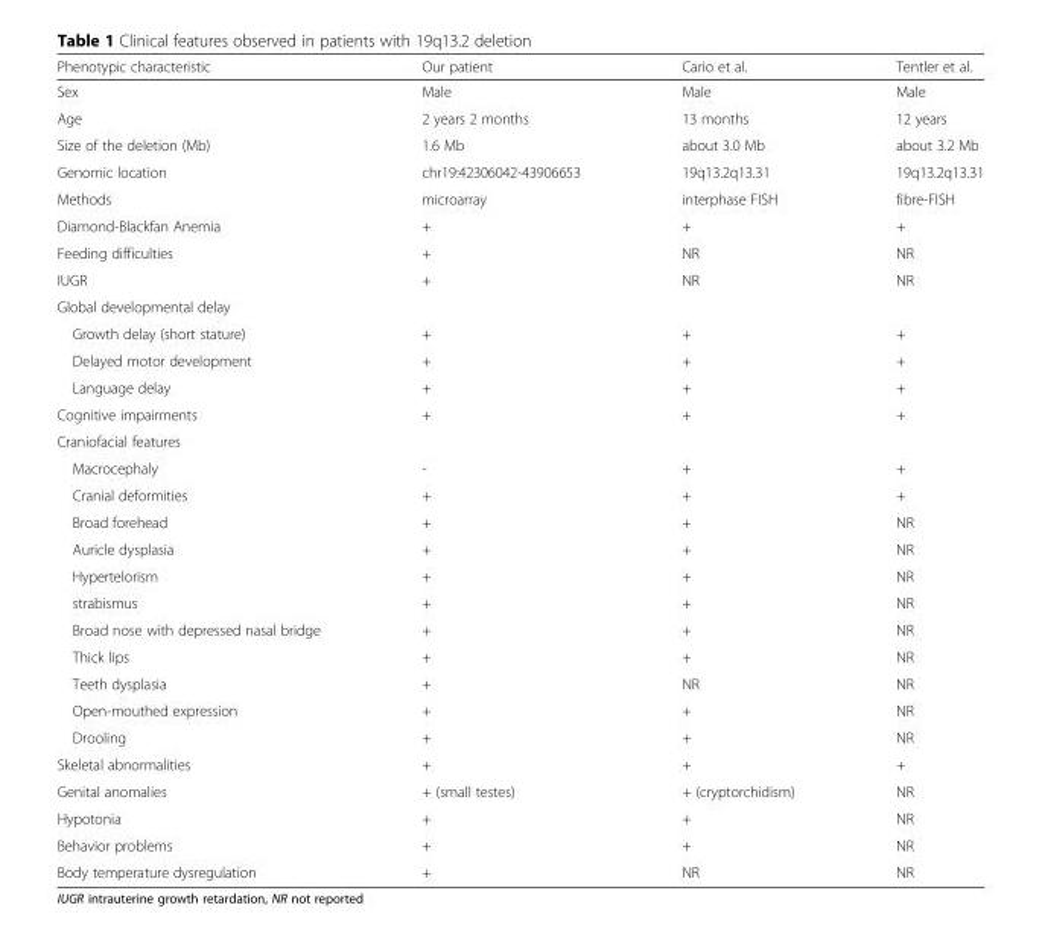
<table><thead><tr><td>Phenotypic characteristic</td><td>Our patient</td><td>Cario et al.</td><td>Tentler et al.</td></tr></thead><tbody><tr><td>Sex</td><td>Male</td><td>Male</td><td>Male</td></tr><tr><td>Age</td><td>2 years 2 months</td><td>13 months</td><td>12 years</td></tr><tr><td>Size of the deletion (Mb)</td><td>1.6 Mb</td><td>about 3.0 Mb</td><td>about 3.2 Mb</td></tr><tr><td>Genomic location</td><td>chr19:42306042-43906653</td><td>19q13.2q13.31</td><td>19q13.2q13.31</td></tr><tr><td>Methods</td><td>microarray</td><td>interphase FISH</td><td>fibre-FISH</td></tr><tr><td>Diamond-Blackfan Anemia</td><td>+</td><td>+</td><td>+</td></tr><tr><td>Feeding difficulties</td><td>+</td><td>NR</td><td>NR</td></tr><tr><td>IUGR</td><td>+</td><td>NR</td><td>NR</td></tr><tr><td colspan="4">Global developmental delay</td></tr><tr><td>Growth delay (short stature)</td><td>+</td><td>+</td><td>+</td></tr><tr><td>Delayed motor development</td><td>+</td><td>+</td><td>+</td></tr><tr><td>Language delay</td><td>+</td><td>+</td><td>+</td></tr><tr><td>Cognitive impairments</td><td>+</td><td>+</td><td>+</td></tr><tr><td colspan="4">Craniofacial features</td></tr><tr><td>Macrocephaly</td><td>-</td><td>+</td><td>+</td></tr><tr><td>Cranial deformities</td><td>+</td><td>+</td><td>+</td></tr><tr><td>Broad forehead</td><td>+</td><td>+</td><td>NR</td></tr><tr><td>Auricle dysplasia</td><td>+</td><td>+</td><td>NR</td></tr><tr><td>Hypertelorism</td><td>+</td><td>+</td><td>NR</td></tr><tr><td>strabismus</td><td>+</td><td>+</td><td>NR</td></tr><tr><td>Broad nose with depressed nasal bridge</td><td>+</td><td>+</td><td>NR</td></tr><tr><td>Thick lips</td><td>+</td><td>+</td><td>NR</td></tr><tr><td>Teeth dysplasia</td><td>+</td><td>NR</td><td>NR</td></tr><tr><td>Open-mouthed expression</td><td>+</td><td>+</td><td>NR</td></tr><tr><td>Drooling</td><td>+</td><td>+</td><td>NR</td></tr><tr><td>Skeletal abnormalities</td><td>+</td><td>+</td><td>+</td></tr><tr><td>Genital anomalies</td><td>+ (small testes)</td><td>+ (cryptorchidism)</td><td>NR</td></tr><tr><td>Hypotonia</td><td>+</td><td>+</td><td>NR</td></tr><tr><td>Behavior problems</td><td>+</td><td>+</td><td>NR</td></tr><tr><td>Body temperature dysregulation</td><td>+</td><td>NR</td><td>NR</td></tr></tbody></table>